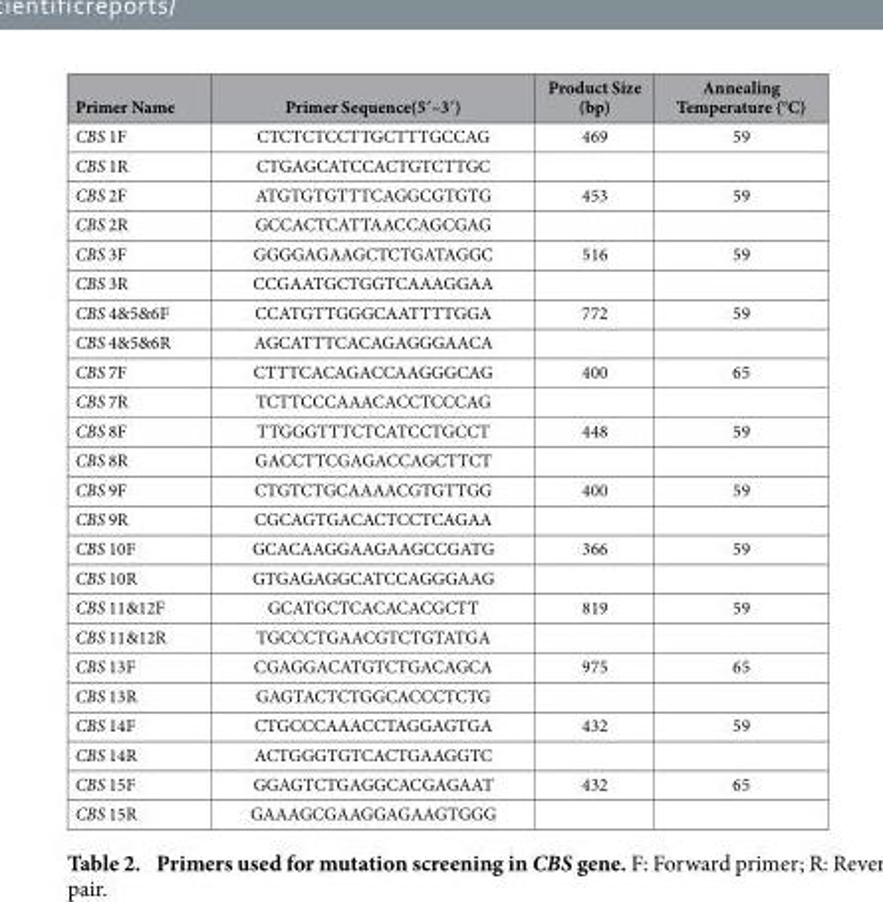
<table><thead><tr><td>Primer Name</td><td>Primer Sequence(5′–3′)</td><td>Product Size (bp)</td><td>Annealing Temperature (°C)</td></tr></thead><tbody><tr><td>CBS 1F</td><td>CTCTCTCCTTGCTTTGCCAG</td><td>469</td><td>59</td></tr><tr><td>CBS 1R</td><td>CTGAGCATCCACTGTCTTGC</td><td></td><td></td></tr><tr><td>CBS 2F</td><td>ATGTGTGTTTCAGGCGTGTG</td><td>453</td><td>59</td></tr><tr><td>CBS 2R</td><td>GCCACTCATTAACCAGCGAG</td><td></td><td></td></tr><tr><td>CBS 3F</td><td>GGGGAGAAGCTCTGATAGGC</td><td>516</td><td>59</td></tr><tr><td>CBS 3R</td><td>CCGAATGCTGGTCAAAGGAA</td><td></td><td></td></tr><tr><td>CBS 4&amp;5&amp;6F</td><td>CCATGTTGGGCAATTTTGGA</td><td>772</td><td>59</td></tr><tr><td>CBS 4&amp;5&amp;6R</td><td>AGCATTTCACAGAGGGAACA</td><td></td><td></td></tr><tr><td>CBS 7F</td><td>CTTTCACAGACCAAGGGCAG</td><td>400</td><td>65</td></tr><tr><td>CBS 7R</td><td>TCTTCCCAAACACCTCCCAG</td><td></td><td></td></tr><tr><td>CBS 8F</td><td>TTGGGTTTCTCATCCTGCCT</td><td>448</td><td>59</td></tr><tr><td>CBS 8R</td><td>GACCTTCGAGACCAGCTTCT</td><td></td><td></td></tr><tr><td>CBS 9F</td><td>CTGTCTGCAAAACGTGTTGG</td><td>400</td><td>59</td></tr><tr><td>CBS 9R</td><td>CGCAGTGACACTCCTCAGAA</td><td></td><td></td></tr><tr><td>CBS 10F</td><td>GCACAAGGAAGAAGCCGATG</td><td>366</td><td>59</td></tr><tr><td>CBS 10R</td><td>GTGAGAGGCATCCAGGGAAG</td><td></td><td></td></tr><tr><td>CBS 11&amp;12F</td><td>GCATGCTCACACACGCTT</td><td>819</td><td>59</td></tr><tr><td>CBS 11&amp;12R</td><td>TGCCCTGAACGTCTGTATGA</td><td></td><td></td></tr><tr><td>CBS 13F</td><td>CGAGGACATGTCTGACAGCA</td><td>975</td><td>65</td></tr><tr><td>CBS 13R</td><td>GAGTACTCTGGCACCCTCTG</td><td></td><td></td></tr><tr><td>CBS 14F</td><td>CTGCCCAAACCTAGGAGTGA</td><td>432</td><td>59</td></tr><tr><td>CBS 14R</td><td>ACTGGGTGTCACTGAAGGTC</td><td></td><td></td></tr><tr><td>CBS 15F</td><td>GGAGTCTGAGGCACGAGAAT</td><td>432</td><td>65</td></tr><tr><td>CBS 15R</td><td>GAAAGCGAAGGAGAAGTGGG</td><td></td><td></td></tr></tbody></table>